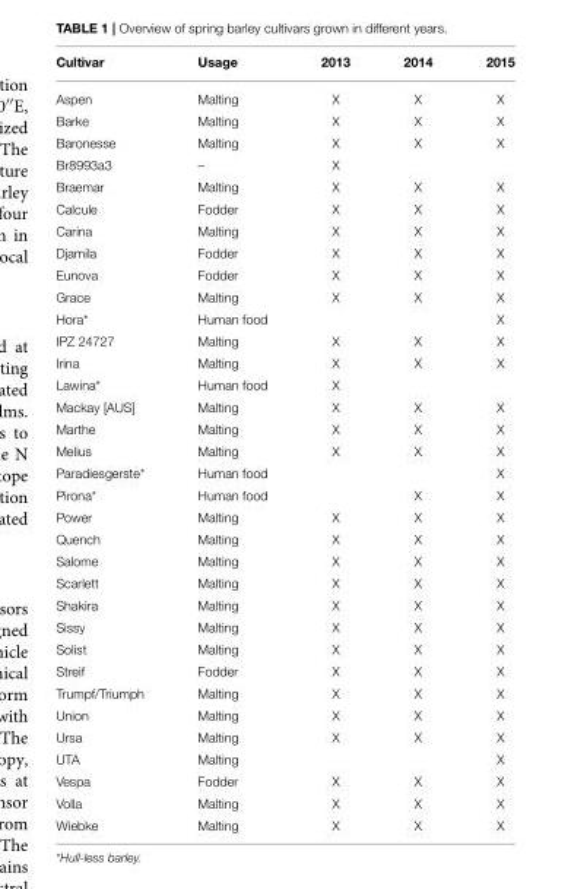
<table><thead><tr><td>Cultivar</td><td>Usage</td><td>2013</td><td>2014</td><td>2015</td></tr></thead><tbody><tr><td>Aspen</td><td>Malting</td><td>X</td><td>X</td><td>X</td></tr><tr><td>Barke</td><td>Malting</td><td>X</td><td>X</td><td>X</td></tr><tr><td>Baronesse</td><td>Malting</td><td>X</td><td>X</td><td>X</td></tr><tr><td>Br8993a3</td><td>–</td><td>X</td><td></td><td></td></tr><tr><td>Braemar</td><td>Malting</td><td>X</td><td>X</td><td>X</td></tr><tr><td>Calcule</td><td>Fodder</td><td>X</td><td>X</td><td>X</td></tr><tr><td>Carina</td><td>Malting</td><td>X</td><td>X</td><td>X</td></tr><tr><td>Djamila</td><td>Fodder</td><td>X</td><td>X</td><td>X</td></tr><tr><td>Eunova</td><td>Fodder</td><td>X</td><td>X</td><td>X</td></tr><tr><td>Grace</td><td>Malting</td><td>X</td><td>X</td><td>X</td></tr><tr><td>Hora*</td><td>Human food</td><td></td><td></td><td>X</td></tr><tr><td>IPZ 24727</td><td>Malting</td><td>X</td><td>X</td><td>X</td></tr><tr><td>Irina</td><td>Malting</td><td>X</td><td>X</td><td>X</td></tr><tr><td>Lawina*</td><td>Human food</td><td>X</td><td></td><td></td></tr><tr><td>Mackay [AUS]</td><td>Malting</td><td>X</td><td>X</td><td>X</td></tr><tr><td>Marthe</td><td>Malting</td><td>X</td><td>X</td><td>X</td></tr><tr><td>Melius</td><td>Malting</td><td>X</td><td>X</td><td>X</td></tr><tr><td>Paradiesgerste*</td><td>Human food</td><td></td><td></td><td>X</td></tr><tr><td>Pirona*</td><td>Human food</td><td></td><td>X</td><td>X</td></tr><tr><td>Power</td><td>Malting</td><td>X</td><td>X</td><td>X</td></tr><tr><td>Quench</td><td>Malting</td><td>X</td><td>X</td><td>X</td></tr><tr><td>Salome</td><td>Malting</td><td>X</td><td>X</td><td>X</td></tr><tr><td>Scarlett</td><td>Malting</td><td>X</td><td>X</td><td>X</td></tr><tr><td>Shakira</td><td>Malting</td><td>X</td><td>X</td><td>X</td></tr><tr><td>Sissy</td><td>Malting</td><td>X</td><td>X</td><td>X</td></tr><tr><td>Solist</td><td>Malting</td><td>X</td><td>X</td><td>X</td></tr><tr><td>Streif</td><td>Fodder</td><td>X</td><td>X</td><td>X</td></tr><tr><td>Trumpf/Triumph</td><td>Malting</td><td>X</td><td>X</td><td>X</td></tr><tr><td>Union</td><td>Malting</td><td>X</td><td>X</td><td>X</td></tr><tr><td>Ursa</td><td>Malting</td><td>X</td><td>X</td><td>X</td></tr><tr><td>UTA</td><td>Malting</td><td></td><td></td><td>X</td></tr><tr><td>Vespa</td><td>Fodder</td><td>X</td><td>X</td><td>X</td></tr><tr><td>Volla</td><td>Malting</td><td>X</td><td>X</td><td>X</td></tr><tr><td>Wiebke</td><td>Malting</td><td>X</td><td>X</td><td>X</td></tr></tbody></table>